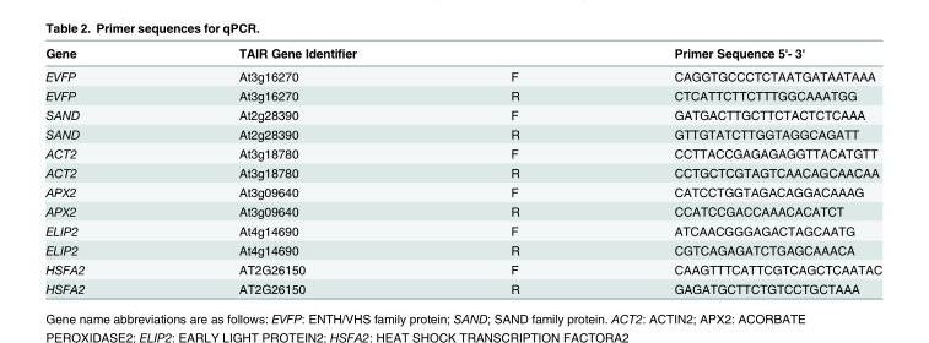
<table><thead><tr><td>Gene</td><td>TAIR Gene Identifier</td><td></td><td>Primer Sequence 5&#x27;- 3&#x27;</td></tr></thead><tbody><tr><td>EVFP</td><td>At3g16270</td><td>F</td><td>CAGGTGCCCTCTAATGATAATAAA</td></tr><tr><td>EVFP</td><td>At3g16270</td><td>R</td><td>CTCATTCTTCTTTGGCAAATGG</td></tr><tr><td>SAND</td><td>At2g28390</td><td>F</td><td>GATGACTTGCTTCTACTCTCAAA</td></tr><tr><td>SAND</td><td>At2g28390</td><td>R</td><td>GTTGTATCTTGGTAGGCAGATT</td></tr><tr><td>ACT2</td><td>At3g18780</td><td>F</td><td>CCTTACCGAGAGAGGTTACATGTT</td></tr><tr><td>ACT2</td><td>At3g18780</td><td>R</td><td>CCTGCTCGTAGTCAACAGCAACAA</td></tr><tr><td>APX2</td><td>At3g09640</td><td>F</td><td>CATCCTGGTAGACAGGACAAAG</td></tr><tr><td>APX2</td><td>At3g09640</td><td>R</td><td>CCATCCGACCAAACACATCT</td></tr><tr><td>ELIP2</td><td>At4g14690</td><td>F</td><td>ATCAACGGGAGACTAGCAATG</td></tr><tr><td>ELIP2</td><td>At4g14690</td><td>R</td><td>CGTCAGAGATCTGAGCAAACA</td></tr><tr><td>HSFA2</td><td>AT2G26150</td><td>F</td><td>CAAGTTTCATTCGTCAGCTCAATAC</td></tr><tr><td>HSFA2</td><td>AT2G26150</td><td>R</td><td>GAGATGCTTCTGTCCTGCTAAA</td></tr></tbody></table>